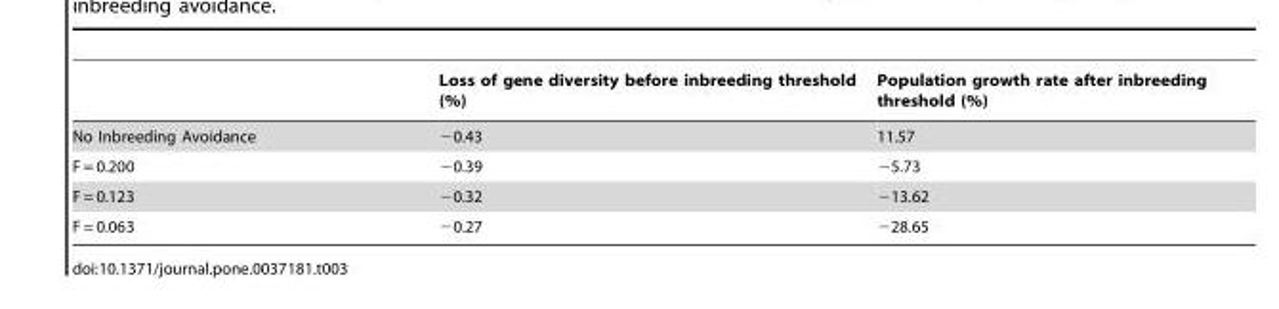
<table><thead><tr><td></td><td>Loss of gene diversity before inbreeding threshold (%)</td><td>Population growth rate after inbreeding threshold (%)</td></tr></thead><tbody><tr><td>No Inbreeding Avoidance</td><td>−0.43</td><td>11.57</td></tr><tr><td>F = 0.200</td><td>−0.39</td><td>−5.73</td></tr><tr><td>F = 0.123</td><td>−0.32</td><td>−13.62</td></tr><tr><td>F = 0.063</td><td>−0.27</td><td>−28.65</td></tr></tbody></table>